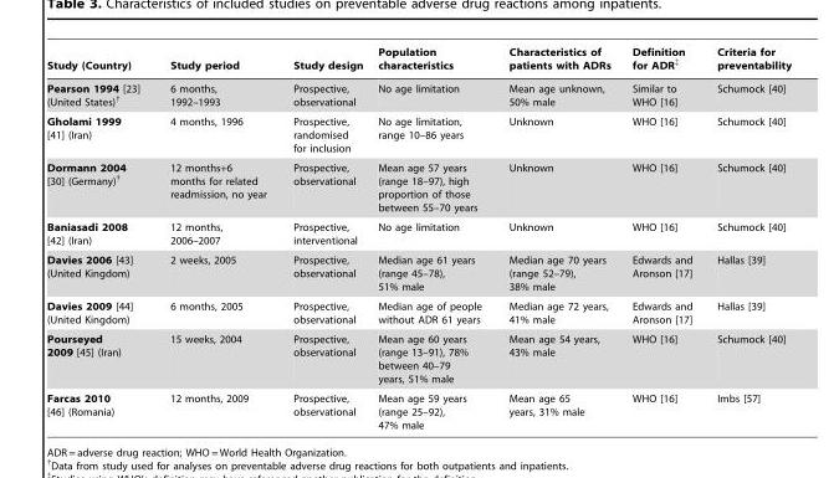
<table><thead><tr><td>Study (Country)</td><td>Study period</td><td>Study design</td><td>Population characteristics</td><td>Characteristics of patients with ADRs</td><td>Definition for ADR‡</td><td>Criteria for preventability</td></tr></thead><tbody><tr><td>Pearson 1994 [23] (United States)†</td><td>6 months, 1992–1993</td><td>Prospective, observational</td><td>No age limitation</td><td>Mean age unknown, 50% male</td><td>Similar to WHO [16]</td><td>Schumock [40]</td></tr><tr><td>Gholami 1999 [41] (Iran)</td><td>4 months, 1996</td><td>Prospective, randomised for inclusion</td><td>No age limitation, range 10–86 years</td><td>Unknown</td><td>WHO [16]</td><td>Schumock [40]</td></tr><tr><td>Dormann 2004 [30] (Germany)†</td><td>12 months+6 months for related readmission, no year</td><td>Prospective, observational</td><td>Mean age 57 years (range 18–97), high proportion of those between 55–70 years</td><td>Unknown</td><td>WHO [16]</td><td>Schumock [40]</td></tr><tr><td>Baniasadi 2008 [42] (Iran)</td><td>12 months, 2006–2007</td><td>Prospective, interventional</td><td>No age limitation</td><td>Unknown</td><td>WHO [16]</td><td>Schumock [40]</td></tr><tr><td>Davies 2006 [43] (United Kingdom)</td><td>2 weeks, 2005</td><td>Prospective, observational</td><td>Median age 61 years (range 45–78), 51% male</td><td>Median age 70 years (range 52–79), 38% male</td><td>Edwards and Aronson [17]</td><td>Hallas [39]</td></tr><tr><td>Davies 2009 [44] (United Kingdom)</td><td>6 months, 2005</td><td>Prospective, observational</td><td>Median age of people without ADR 61 years</td><td>Median age 72 years, 41% male</td><td>Edwards and Aronson [17]</td><td>Hallas [39]</td></tr><tr><td>Pourseyed 2009 [45] (Iran)</td><td>15 weeks, 2004</td><td>Prospective, observational</td><td>Mean age 60 years (range 13–91), 78% between 40–79 years, 51% male</td><td>Mean age 54 years, 43% male</td><td>WHO [16]</td><td>Schumock [40]</td></tr><tr><td>Farcas 2010 [46] (Romania)</td><td>12 months, 2009</td><td>Prospective, observational</td><td>Mean age 59 years (range 25–92), 47% male</td><td>Mean age 65 years, 31% male</td><td>WHO [16]</td><td>Imbs [57]</td></tr></tbody></table>